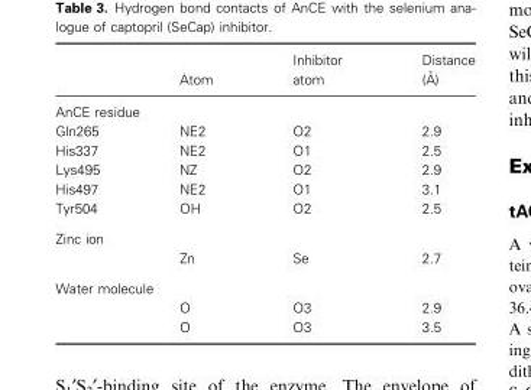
<table><thead><tr><td></td><td>Atom</td><td>Inhibitor atom</td><td>Distance (A˚ )</td></tr></thead><tbody><tr><td colspan="4">AnCE residue</td></tr><tr><td>Gln265</td><td>NE2</td><td>O2</td><td>2.9</td></tr><tr><td>His337</td><td>NE2</td><td>O1</td><td>2.5</td></tr><tr><td>Lys495</td><td>NZ</td><td>O2</td><td>2.9</td></tr><tr><td>His497</td><td>NE2</td><td>O1</td><td>3.1</td></tr><tr><td>Tyr504</td><td>OH</td><td>O2</td><td>2.5</td></tr><tr><td colspan="4">Zinc ion</td></tr><tr><td></td><td>Zn</td><td>Se</td><td>2.7</td></tr><tr><td colspan="4">Water molecule</td></tr><tr><td></td><td>O</td><td>O3</td><td>2.9</td></tr><tr><td></td><td>O</td><td>O3</td><td>3.5</td></tr></tbody></table>